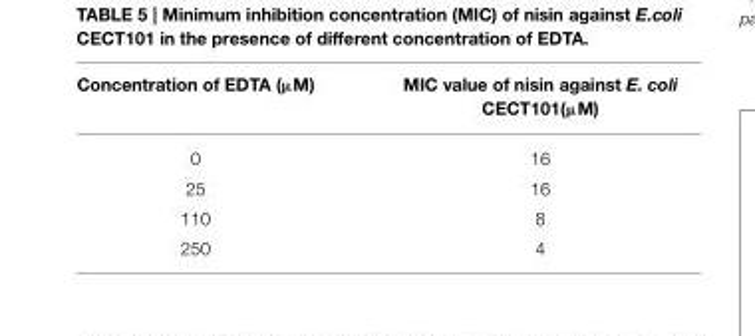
<table><thead><tr><td>Concentration of EDTA (µM)</td><td>MIC value of nisin against E. coli CECT101(µM)</td></tr></thead><tbody><tr><td>0</td><td>16</td></tr><tr><td>25</td><td>16</td></tr><tr><td>110</td><td>8</td></tr><tr><td>250</td><td>4</td></tr></tbody></table>